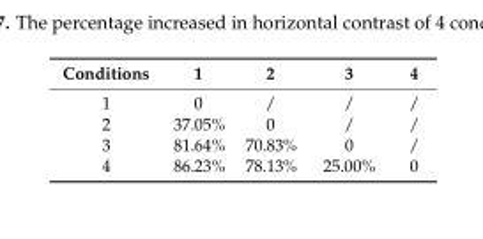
<table><thead><tr><td>Conditions</td><td>1</td><td>2</td><td>3</td><td>4</td></tr></thead><tbody><tr><td>1</td><td>0</td><td>/</td><td>/</td><td>/</td></tr><tr><td>2</td><td>37.05%</td><td>0</td><td>/</td><td>/</td></tr><tr><td>3</td><td>81.64%</td><td>70.83%</td><td>0</td><td>/</td></tr><tr><td>4</td><td>86.23%</td><td>78.13%</td><td>25.00%</td><td>0</td></tr></tbody></table>